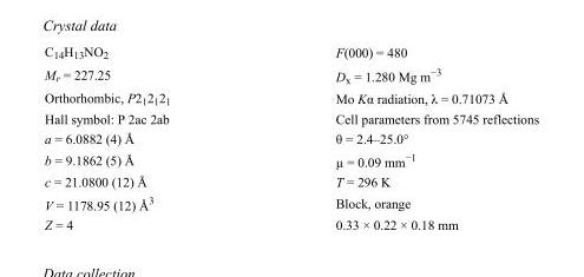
<table><tbody><tr><td>C<sub>14</sub>H<sub>13</sub>NO<sub>2</sub></td><td>F(000) = 480</td></tr><tr><td>M<sub>r</sub> = 227.25</td><td>D<sub>x</sub> = 1.280 Mg m<sup>−3</sup></td></tr><tr><td>Orthorhombic, P2<sub>1</sub>2<sub>1</sub>2<sub>1</sub></td><td>Mo Kα radiation, λ = 0.71073 Å</td></tr><tr><td>Hall symbol: P 2ac 2ab</td><td>Cell parameters from 5745 reflections</td></tr><tr><td>a = 6.0882 (4) Å</td><td>θ = 2.4–25.0°</td></tr><tr><td>b = 9.1862 (5) Å</td><td>µ = 0.09 mm<sup>−1</sup></td></tr><tr><td>c = 21.0800 (12) Å</td><td>T = 296 K</td></tr><tr><td>V = 1178.95 (12) Å<sup>3</sup></td><td>Block, orange</td></tr><tr><td>Z = 4</td><td>0.33 × 0.22 × 0.18 mm</td></tr></tbody></table>